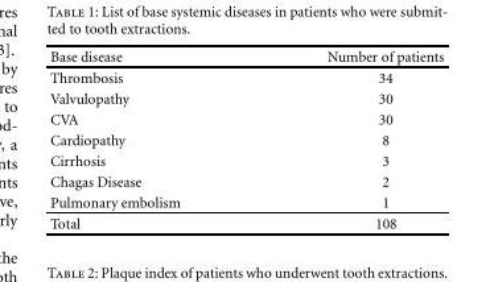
<table><thead><tr><td>Base disease</td><td>Number of patients</td></tr></thead><tbody><tr><td>Thrombosis</td><td>34</td></tr><tr><td>Valvulopathy</td><td>30</td></tr><tr><td>CVA</td><td>30</td></tr><tr><td>Cardiopathy</td><td>8</td></tr><tr><td>Cirrhosis</td><td>3</td></tr><tr><td>Chagas Disease</td><td>2</td></tr><tr><td>Pulmonary embolism</td><td>1</td></tr><tr><td>Total</td><td>108</td></tr></tbody></table>